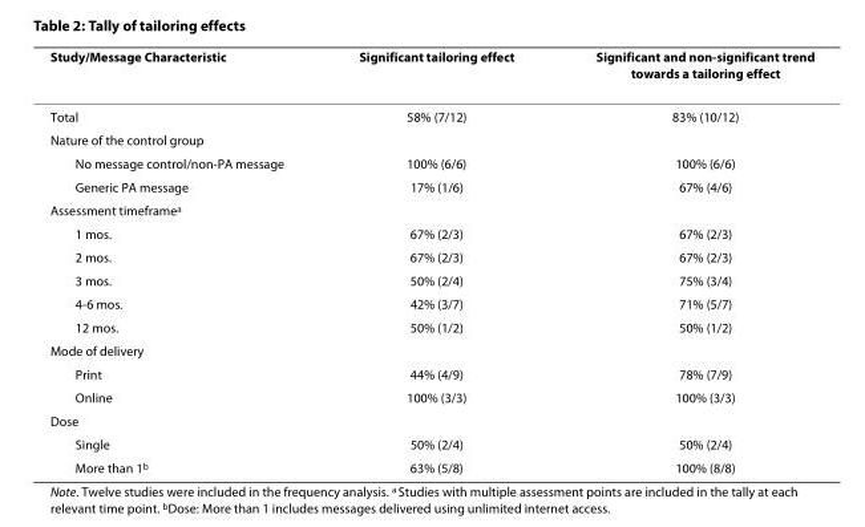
<table><thead><tr><td>Study/Message Characteristic</td><td>Significant tailoring effect</td><td>Significant and non-significant trend towards a tailoring effect</td></tr></thead><tbody><tr><td>Total</td><td>58% (7/12)</td><td>83% (10/12)</td></tr><tr><td colspan="3">Nature of the control group</td></tr><tr><td>No message control/non-PA message</td><td>100% (6/6)</td><td>100% (6/6)</td></tr><tr><td>Generic PA message</td><td>17% (1/6)</td><td>67% (4/6)</td></tr><tr><td colspan="3">Assessment timeframe<sup>a</sup></td></tr><tr><td>1 mos.</td><td>67% (2/3)</td><td>67% (2/3)</td></tr><tr><td>2 mos.</td><td>67% (2/3)</td><td>67% (2/3)</td></tr><tr><td>3 mos.</td><td>50% (2/4)</td><td>75% (3/4)</td></tr><tr><td>4-6 mos.</td><td>42% (3/7)</td><td>71% (5/7)</td></tr><tr><td>12 mos.</td><td>50% (1/2)</td><td>50% (1/2)</td></tr><tr><td colspan="3">Mode of delivery</td></tr><tr><td>Print</td><td>44% (4/9)</td><td>78% (7/9)</td></tr><tr><td>Online</td><td>100% (3/3)</td><td>100% (3/3)</td></tr><tr><td colspan="3">Dose</td></tr><tr><td>Single</td><td>50% (2/4)</td><td>50% (2/4)</td></tr><tr><td>More than 1<sup>b</sup></td><td>63% (5/8)</td><td>100% (8/8)</td></tr></tbody></table>